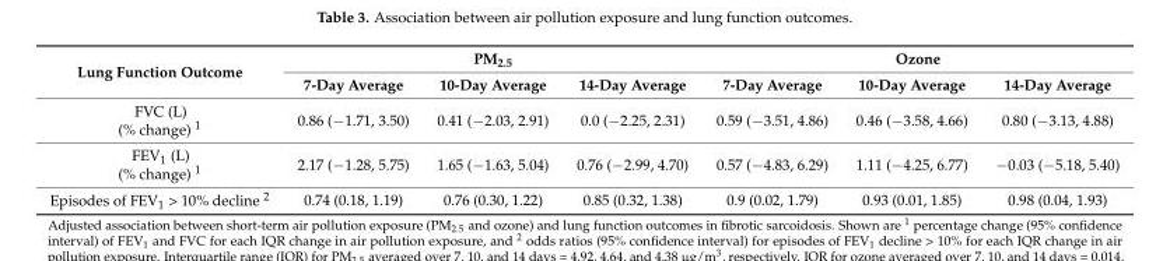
<table><thead><tr><td rowspan="2">Lung Function Outcome</td><td colspan="3">PM<sub>2.5</sub></td><td colspan="3">Ozone</td></tr><tr><td>7-Day Average</td><td>10-Day Average</td><td>14-Day Average</td><td>7-Day Average</td><td>10-Day Average</td><td>14-Day Average</td></tr></thead><tbody><tr><td>FVC (L) (% change) <sup>1</sup></td><td>0.86 (−1.71, 3.50)</td><td>0.41 (−2.03, 2.91)</td><td>0.0 (−2.25, 2.31)</td><td>0.59 (−3.51, 4.86)</td><td>0.46 (−3.58, 4.66)</td><td>0.80 (−3.13, 4.88)</td></tr><tr><td>FEV<sub>1</sub> (L) (% change) <sup>1</sup></td><td>2.17 (−1.28, 5.75)</td><td>1.65 (−1.63, 5.04)</td><td>0.76 (−2.99, 4.70)</td><td>0.57 (−4.83, 6.29)</td><td>1.11 (−4.25, 6.77)</td><td>−0.03 (−5.18, 5.40)</td></tr><tr><td>Episodes of FEV<sub>1</sub> &gt; 10% decline <sup>2</sup></td><td>0.74 (0.18, 1.19)</td><td>0.76 (0.30, 1.22)</td><td>0.85 (0.32, 1.38)</td><td>0.9 (0.02, 1.79)</td><td>0.93 (0.01, 1.85)</td><td>0.98 (0.04, 1.93)</td></tr></tbody></table>